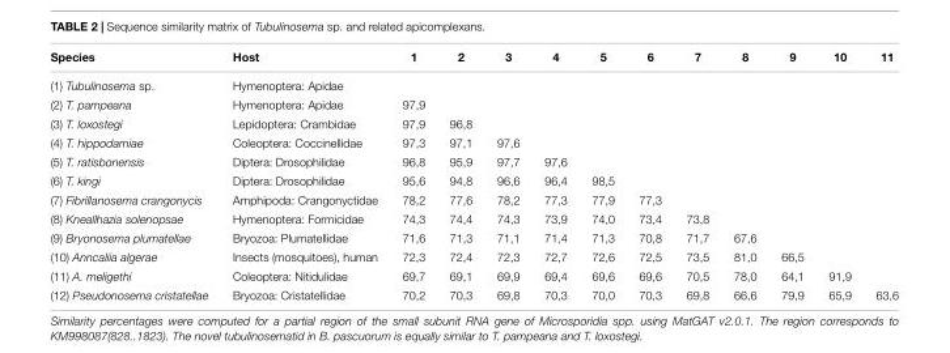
<table><thead><tr><td>Species</td><td>Host</td><td>1</td><td>2</td><td>3</td><td>4</td><td>5</td><td>6</td><td>7</td><td>8</td><td>9</td><td>10</td><td>11</td></tr></thead><tbody><tr><td>(1) Tubulinosema sp.</td><td>Hymenoptera: Apidae</td><td></td><td></td><td></td><td></td><td></td><td></td><td></td><td></td><td></td><td></td><td></td></tr><tr><td>(2) T. pampeana</td><td>Hymenoptera: Apidae</td><td>97,9</td><td></td><td></td><td></td><td></td><td></td><td></td><td></td><td></td><td></td><td></td></tr><tr><td>(3) T. loxostegi</td><td>Lepidoptera: Crambidae</td><td>97,9</td><td>96,8</td><td></td><td></td><td></td><td></td><td></td><td></td><td></td><td></td><td></td></tr><tr><td>(4) T. hippodamiae</td><td>Coleoptera: Coccinellidae</td><td>97,3</td><td>97,1</td><td>97,6</td><td></td><td></td><td></td><td></td><td></td><td></td><td></td><td></td></tr><tr><td>(5) T. ratisbonensis</td><td>Diptera: Drosophilidae</td><td>96,8</td><td>95,9</td><td>97,7</td><td>97,6</td><td></td><td></td><td></td><td></td><td></td><td></td><td></td></tr><tr><td>(6) T. kingi</td><td>Diptera: Drosophilidae</td><td>95,6</td><td>94,8</td><td>96,6</td><td>96,4</td><td>98,5</td><td></td><td></td><td></td><td></td><td></td><td></td></tr><tr><td>(7) Fibrillanosema crangonycis</td><td>Amphipoda: Crangonyctidae</td><td>78,2</td><td>77,6</td><td>78,2</td><td>77,3</td><td>77,9</td><td>77,3</td><td></td><td></td><td></td><td></td><td></td></tr><tr><td>(8) Kneallhazia solenopsae</td><td>Hymenoptera: Formicidae</td><td>74,3</td><td>74,4</td><td>74,3</td><td>73,9</td><td>74,0</td><td>73,4</td><td>73,8</td><td></td><td></td><td></td><td></td></tr><tr><td>(9) Bryonosema plumatellae</td><td>Bryozoa: Plumatellidae</td><td>71,6</td><td>71,3</td><td>71,1</td><td>71,4</td><td>71,3</td><td>70,8</td><td>71,7</td><td>67,6</td><td></td><td></td><td></td></tr><tr><td>(10) Anncaliia algerae</td><td>Insects (mosquitoes), human</td><td>72,3</td><td>72,4</td><td>72,3</td><td>72,7</td><td>72,6</td><td>72,5</td><td>73,5</td><td>81,0</td><td>66,5</td><td></td><td></td></tr><tr><td>(11) A. meligethi</td><td>Coleoptera: Nitidulidae</td><td>69,7</td><td>69,1</td><td>69,9</td><td>69,4</td><td>69,6</td><td>69,6</td><td>70,5</td><td>78,0</td><td>64,1</td><td>91,9</td><td></td></tr><tr><td>(12) Pseudonosema cristatellae</td><td>Bryozoa: Cristatellidae</td><td>70,2</td><td>70,3</td><td>69,8</td><td>70,3</td><td>70,0</td><td>70,3</td><td>69,8</td><td>66,6</td><td>79,9</td><td>65,9</td><td>63,6</td></tr></tbody></table>